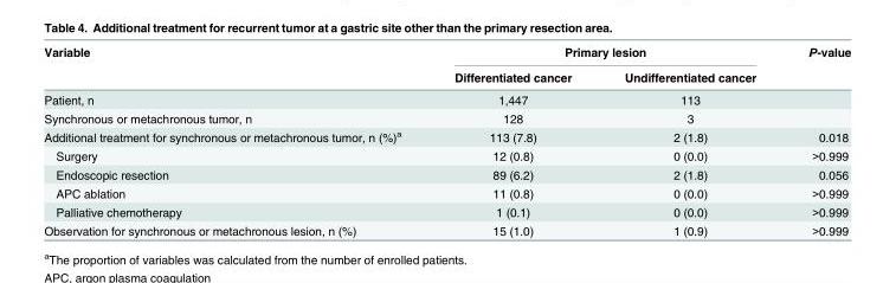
<table><thead><tr><td rowspan="2">Variable</td><td colspan="2">Primary lesion</td><td rowspan="2">P-value</td></tr><tr><td>Differentiated cancer</td><td>Undifferentiated cancer</td></tr></thead><tbody><tr><td>Patient, n</td><td>1,447</td><td>113</td><td></td></tr><tr><td>Synchronous or metachronous tumor, n</td><td>128</td><td>3</td><td></td></tr><tr><td>Additional treatment for synchronous or metachronous tumor, n (%)<sup>a</sup></td><td>113 (7.8)</td><td>2 (1.8)</td><td>0.018</td></tr><tr><td>Surgery</td><td>12 (0.8)</td><td>0 (0.0)</td><td>&gt;0.999</td></tr><tr><td>Endoscopic resection</td><td>89 (6.2)</td><td>2 (1.8)</td><td>0.056</td></tr><tr><td>APC ablation</td><td>11 (0.8)</td><td>0 (0.0)</td><td>&gt;0.999</td></tr><tr><td>Palliative chemotherapy</td><td>1 (0.1)</td><td>0 (0.0)</td><td>&gt;0.999</td></tr><tr><td>Observation for synchronous or metachronous lesion, n (%)</td><td>15 (1.0)</td><td>1 (0.9)</td><td>&gt;0.999</td></tr></tbody></table>